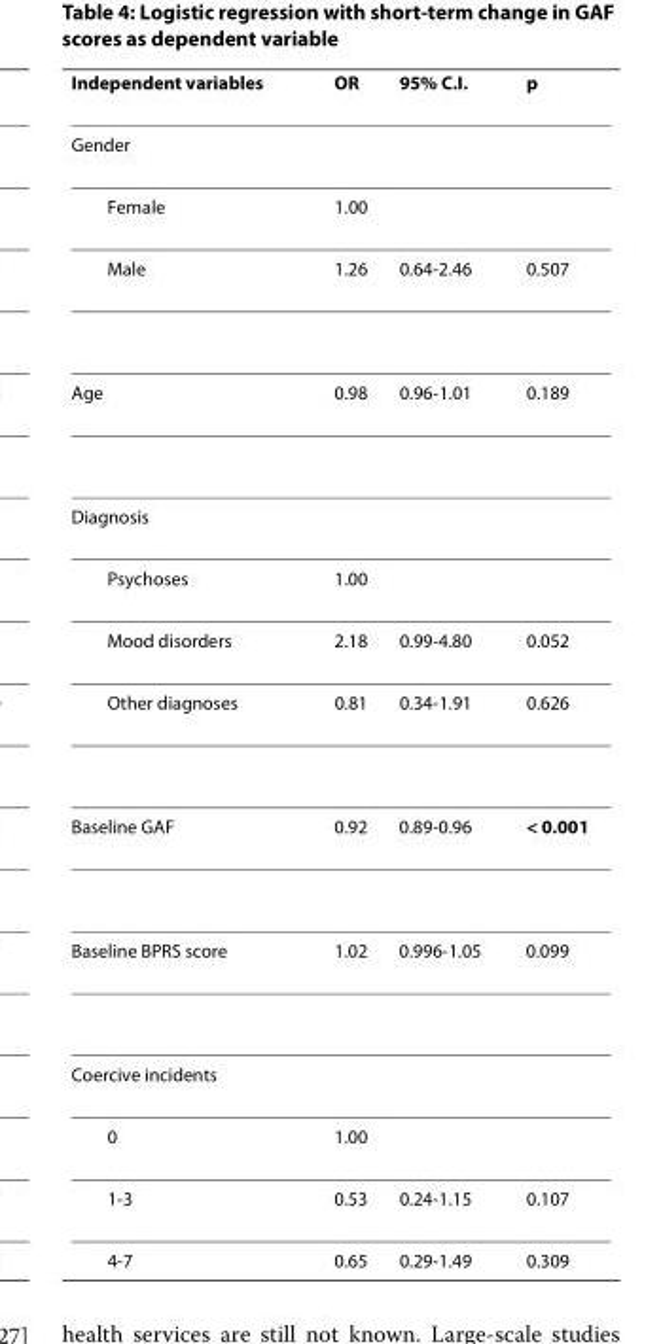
<table><thead><tr><td>Independent variables</td><td>OR</td><td>95% C.I.</td><td>p</td></tr></thead><tbody><tr><td colspan="4">Gender</td></tr><tr><td>Female</td><td>1.00</td><td></td><td></td></tr><tr><td>Male</td><td>1.26</td><td>0.64-2.46</td><td>0.507</td></tr><tr><td>Age</td><td>0.98</td><td>0.96-1.01</td><td>0.189</td></tr><tr><td colspan="4">Diagnosis</td></tr><tr><td>Psychoses</td><td>1.00</td><td></td><td></td></tr><tr><td>Mood disorders</td><td>2.18</td><td>0.99-4.80</td><td>0.052</td></tr><tr><td>Other diagnoses</td><td>0.81</td><td>0.34-1.91</td><td>0.626</td></tr><tr><td>Baseline GAF</td><td>0.92</td><td>0.89-0.96</td><td>&lt; 0.001</td></tr><tr><td>Baseline BPRS score</td><td>1.02</td><td>0.996-1.05</td><td>0.099</td></tr><tr><td colspan="4">Coercive incidents</td></tr><tr><td>0</td><td>1.00</td><td></td><td></td></tr><tr><td>1-3</td><td>0.53</td><td>0.24-1.15</td><td>0.107</td></tr><tr><td>4-7</td><td>0.65</td><td>0.29-1.49</td><td>0.309</td></tr></tbody></table>